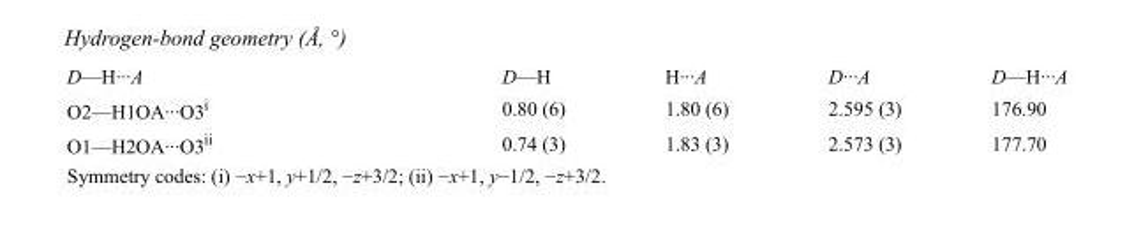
<table><tbody><tr><td>D—H···A</td><td>D—H</td><td>H···A</td><td>D···A</td><td>D—H···A</td></tr><tr><td>O2—H1OA···O3<sup>i</sup></td><td>0.80 (6)</td><td>1.80 (6)</td><td>2.595 (3)</td><td>176.90</td></tr><tr><td>O1—H2OA···O3<sup>ii</sup></td><td>0.74 (3)</td><td>1.83 (3)</td><td>2.573 (3)</td><td>177.70</td></tr></tbody></table>